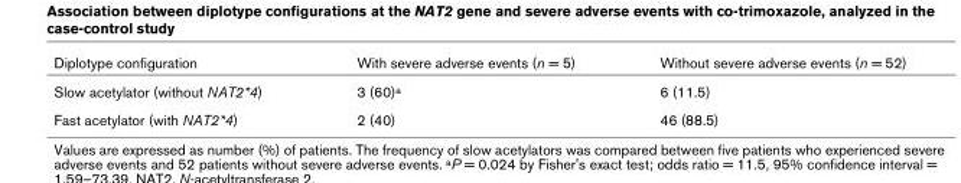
<table><thead><tr><td>Diplotype configuration</td><td>With severe adverse events (n = 5)</td><td>Without severe adverse events (n = 52)</td></tr></thead><tbody><tr><td>Slow acetylator (without NAT2*4)</td><td>3 (60)<sup>a</sup></td><td>6 (11.5)</td></tr><tr><td>Fast acetylator (with NAT2*4)</td><td>2 (40)</td><td>46 (88.5)</td></tr></tbody></table>